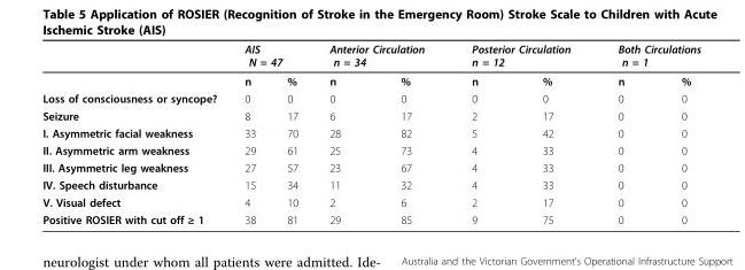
<table><thead><tr><td rowspan="2"></td><td colspan="2">AIS N = 47</td><td colspan="2">Anterior Circulation n = 34</td><td colspan="2">Posterior Circulation n = 12</td><td colspan="2">Both Circulations n = 1</td></tr><tr><td>n</td><td>%</td><td>n</td><td>%</td><td>n</td><td>%</td><td>n</td><td>%</td></tr></thead><tbody><tr><td>Loss of consciousness or syncope?</td><td>0</td><td>0</td><td>0</td><td>0</td><td>0</td><td>0</td><td>0</td><td>0</td></tr><tr><td>Seizure</td><td>8</td><td>17</td><td>6</td><td>17</td><td>2</td><td>17</td><td>0</td><td>0</td></tr><tr><td>I. Asymmetric facial weakness</td><td>33</td><td>70</td><td>28</td><td>82</td><td>5</td><td>42</td><td>0</td><td>0</td></tr><tr><td>II. Asymmetric arm weakness</td><td>29</td><td>61</td><td>25</td><td>73</td><td>4</td><td>33</td><td>0</td><td>0</td></tr><tr><td>III. Asymmetric leg weakness</td><td>27</td><td>57</td><td>23</td><td>67</td><td>4</td><td>33</td><td>0</td><td>0</td></tr><tr><td>IV. Speech disturbance</td><td>15</td><td>34</td><td>11</td><td>32</td><td>4</td><td>33</td><td>0</td><td>0</td></tr><tr><td>V. Visual defect</td><td>4</td><td>10</td><td>2</td><td>6</td><td>2</td><td>17</td><td>0</td><td>0</td></tr><tr><td>Positive ROSIER with cut off ≥ 1</td><td>38</td><td>81</td><td>29</td><td>85</td><td>9</td><td>75</td><td>0</td><td>0</td></tr></tbody></table>